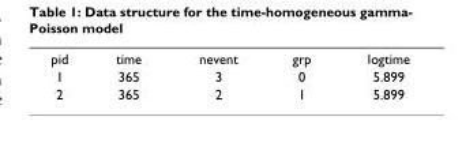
<table><tbody><tr><td>pid</td><td>time</td><td>nevent</td><td>grp</td><td>logtime</td></tr><tr><td>1</td><td>365</td><td>3</td><td>0</td><td>5.899</td></tr><tr><td>2</td><td>365</td><td>2</td><td>1</td><td>5.899</td></tr></tbody></table>